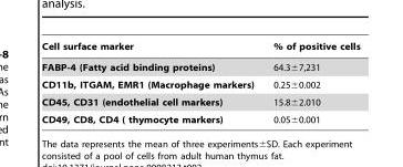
<table><thead><tr><td>Cell surface marker</td><td>% of positive cells</td></tr></thead><tbody><tr><td>FABP-4 (Fatty acid binding proteins)</td><td>64.3±7,231</td></tr><tr><td>CD11b, ITGAM, EMR1 (Macrophage markers)</td><td>0.25±0.002</td></tr><tr><td>CD45, CD31 (endothelial cell markers)</td><td>15.8±2.010</td></tr><tr><td>CD49, CD8, CD4 ( thymocyte markers)</td><td>0.05±0.001</td></tr></tbody></table>